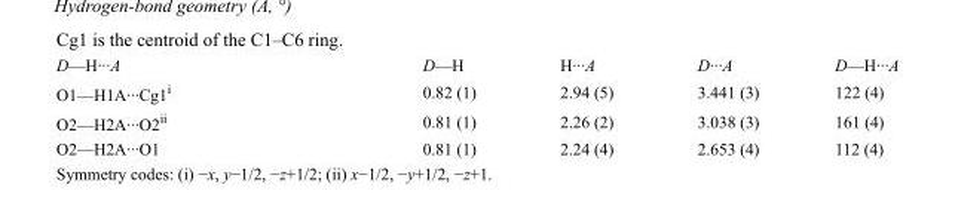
<table><tbody><tr><td>D—H···A</td><td>D—H</td><td>H···A</td><td>D···A</td><td>D—H···A</td></tr><tr><td>O1—H1A···Cg1<sup>i</sup></td><td>0.82 (1)</td><td>2.94 (5)</td><td>3.441 (3)</td><td>122 (4)</td></tr><tr><td>O2—H2A···O2<sup>ii</sup></td><td>0.81 (1)</td><td>2.26 (2)</td><td>3.038 (3)</td><td>161 (4)</td></tr><tr><td>O2—H2A···O1</td><td>0.81 (1)</td><td>2.24 (4)</td><td>2.653 (4)</td><td>112 (4)</td></tr></tbody></table>